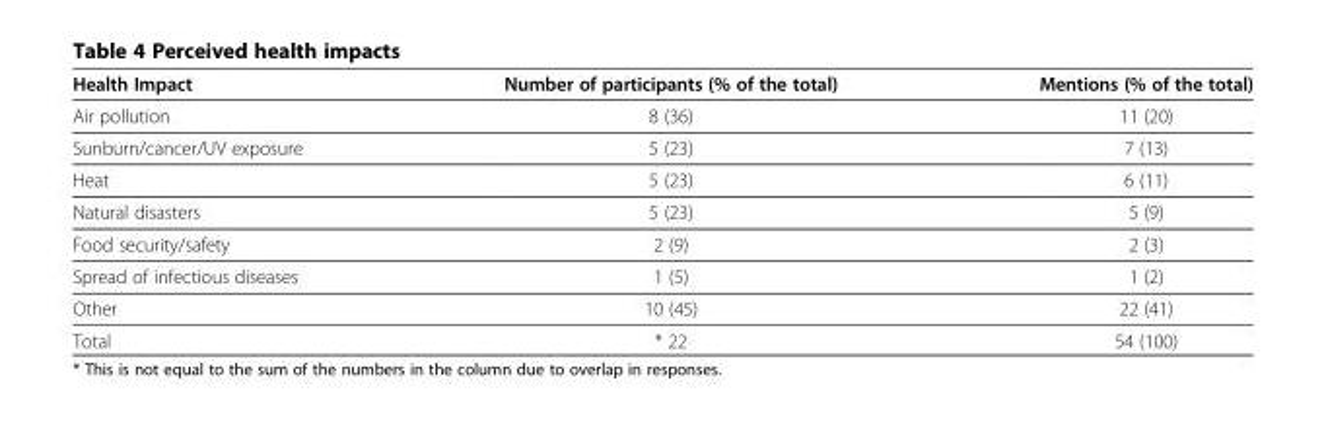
<table><thead><tr><td>Health Impact</td><td>Number of participants (% of the total)</td><td>Mentions (% of the total)</td></tr></thead><tbody><tr><td>Air pollution</td><td>8 (36)</td><td>11 (20)</td></tr><tr><td>Sunburn/cancer/UV exposure</td><td>5 (23)</td><td>7 (13)</td></tr><tr><td>Heat</td><td>5 (23)</td><td>6 (11)</td></tr><tr><td>Natural disasters</td><td>5 (23)</td><td>5 (9)</td></tr><tr><td>Food security/safety</td><td>2 (9)</td><td>2 (3)</td></tr><tr><td>Spread of infectious diseases</td><td>1 (5)</td><td>1 (2)</td></tr><tr><td>Other</td><td>10 (45)</td><td>22 (41)</td></tr><tr><td>Total</td><td>* 22</td><td>54 (100)</td></tr></tbody></table>